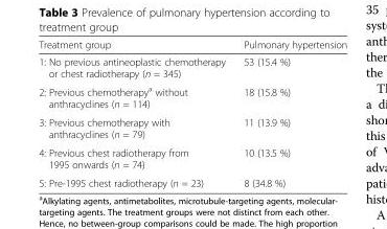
<table><thead><tr><td>Treatment group</td><td>Pulmonary hypertension</td></tr></thead><tbody><tr><td>1: No previous antineoplastic chemotherapy or chest radiotherapy (n = 345)</td><td>53 (15.4 %)</td></tr><tr><td>2: Previous chemotherapy<sup>a</sup> without anthracyclines (n = 114)</td><td>18 (15.8 %)</td></tr><tr><td>3: Previous chemotherapy with anthracyclines (n = 79)</td><td>11 (13.9 %)</td></tr><tr><td>4: Previous chest radiotherapy from 1995 onwards (n = 74)</td><td>10 (13.5 %)</td></tr><tr><td>5: Pre-1995 chest radiotherapy (n = 23)</td><td>8 (34.8 %)</td></tr></tbody></table>